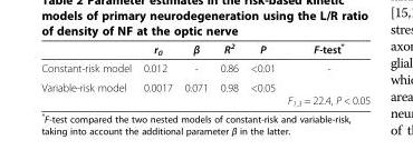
<table><thead><tr><td></td><td>r<sub>0</sub></td><td>β</td><td>R<sup>2</sup></td><td>P</td><td>F-test*</td></tr></thead><tbody><tr><td>Constant-risk model</td><td>0.012</td><td>-</td><td>0.86</td><td>&lt;0.01</td><td>-</td></tr><tr><td>Variable-risk model</td><td>0.0017</td><td>0.071</td><td>0.98</td><td>&lt;0.05</td><td>F<sub>1,3</sub> = 22.4, P &lt; 0.05</td></tr></tbody></table>